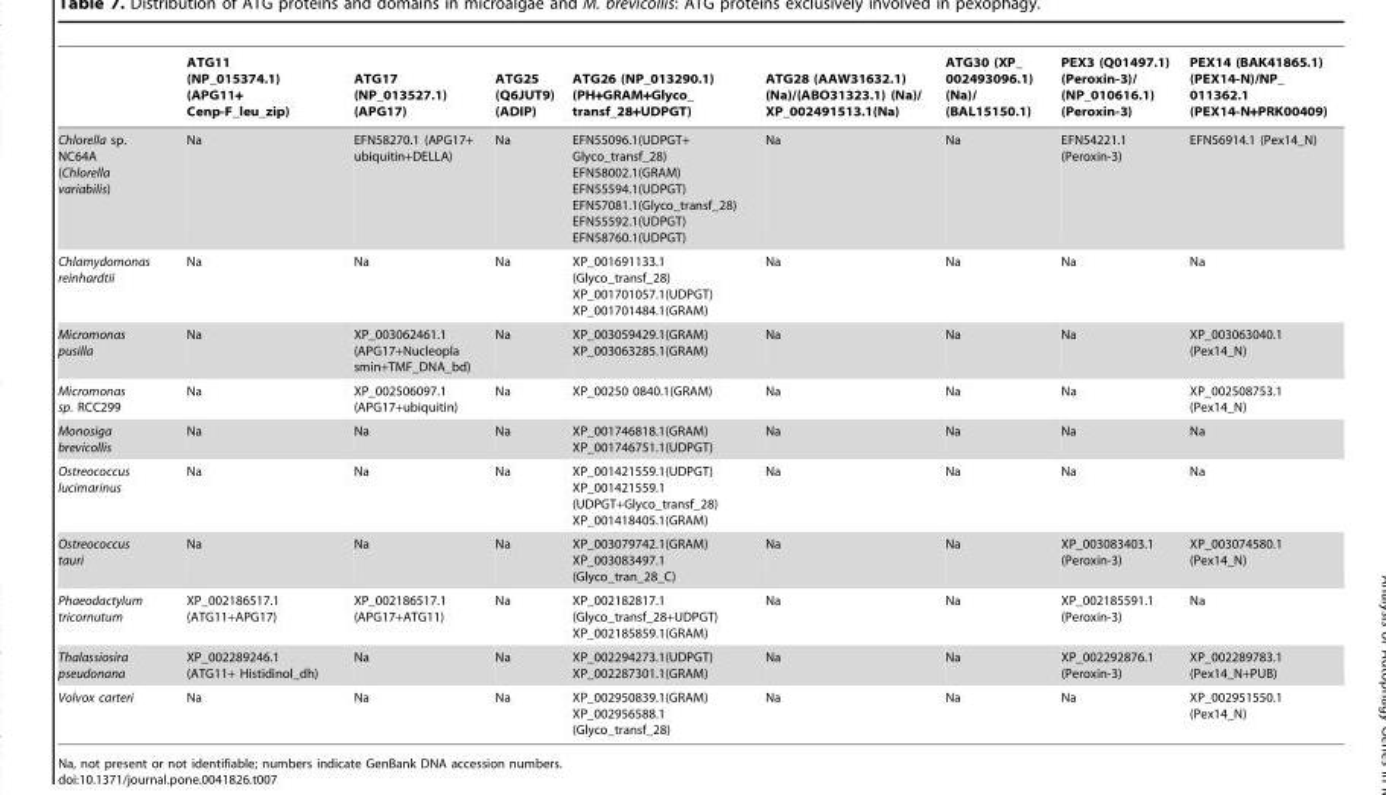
<table><thead><tr><td></td><td>ATG11 (NP_015374.1) (APG11+ Cenp-F_leu_zip)</td><td>ATG17 (NP_013527.1) (APG17)</td><td>ATG25 (Q6JUT9) (ADIP)</td><td>ATG26 (NP_013290.1) (PH+GRAM+Glyco_ transf_28+UDPGT)</td><td>ATG28 (AAW31632.1) (Na)/(ABO31323.1) (Na)/ XP_002491513.1(Na)</td><td>ATG30 (XP_ 002493096.1) (Na)/ (BAL15150.1)</td><td>PEX3 (Q01497.1) (Peroxin-3)/ (NP_010616.1) (Peroxin-3)</td><td>PEX14 (BAK41865.1) (PEX14-N)/NP_ 011362.1 (PEX14-N+PRK00409)</td></tr></thead><tbody><tr><td>Chlorella sp. NC64A (Chlorella variabilis)</td><td>Na</td><td>EFN58270.1 (APG17+ ubiquitin+DELLA)</td><td>Na</td><td>EFN55096.1(UDPGT+ Glyco_transf_28) EFN58002.1(GRAM) EFN55594.1(UDPGT) EFN57081.1(Glyco_transf_28) EFN55592.1(UDPGT) EFN58760.1(UDPGT)</td><td>Na</td><td>Na</td><td>EFN54221.1 (Peroxin-3)</td><td>EFN56914.1 (Pex14_N)</td></tr><tr><td>Chlamydomonas reinhardtii</td><td>Na</td><td>Na</td><td>Na</td><td>XP_001691133.1 (Glyco_transf_28) XP_001701057.1(UDPGT) XP_001701484.1(GRAM)</td><td>Na</td><td>Na</td><td>Na</td><td>Na</td></tr><tr><td>Micromonas pusilla</td><td>Na</td><td>XP_003062461.1 (APG17+Nucleopla smin+TMF_DNA_bd)</td><td>Na</td><td>XP_003059429.1(GRAM) XP_003063285.1(GRAM)</td><td>Na</td><td>Na</td><td>Na</td><td>XP_003063040.1 (Pex14_N)</td></tr><tr><td>Micromonas sp. RCC299</td><td>Na</td><td>XP_002506097.1 (APG17+ubiquitin)</td><td>Na</td><td>XP_00250 0840.1(GRAM)</td><td>Na</td><td>Na</td><td>Na</td><td>XP_002508753.1 (Pex14_N)</td></tr><tr><td>Monosiga brevicollis</td><td>Na</td><td>Na</td><td>Na</td><td>XP_001746818.1(GRAM) XP_001746751.1(UDPGT)</td><td>Na</td><td>Na</td><td>Na</td><td>Na</td></tr><tr><td>Ostreococcus lucimarinus</td><td>Na</td><td>Na</td><td>Na</td><td>XP_001421559.1(UDPGT) XP_001421559.1 (UDPGT+Glyco_transf_28) XP_001418405.1(GRAM)</td><td>Na</td><td>Na</td><td>Na</td><td>Na</td></tr><tr><td>Ostreococcus tauri</td><td>Na</td><td>Na</td><td>Na</td><td>XP_003079742.1(GRAM) XP_003083497.1 (Glyco_tran_28_C)</td><td>Na</td><td>Na</td><td>XP_003083403.1 (Peroxin-3)</td><td>XP_003074580.1 (Pex14_N)</td></tr><tr><td>Phaeodactylum tricornutum</td><td>XP_002186517.1 (ATG11+APG17)</td><td>XP_002186517.1 (APG17+ATG11)</td><td>Na</td><td>XP_002182817.1 (Glyco_transf_28+UDPGT) XP_002185859.1(GRAM)</td><td>Na</td><td>Na</td><td>XP_002185591.1 (Peroxin-3)</td><td>Na</td></tr><tr><td>Thalassiosira pseudonana</td><td>XP_002289246.1 (ATG11+ Histidinol_dh)</td><td>Na</td><td>Na</td><td>XP_002294273.1(UDPGT) XP_002287301.1(GRAM)</td><td>Na</td><td>Na</td><td>XP_002292876.1 (Peroxin-3)</td><td>XP_002289783.1 (Pex14_N+PUB)</td></tr><tr><td>Volvox carteri</td><td>Na</td><td>Na</td><td>Na</td><td>XP_002950839.1(GRAM) XP_002956588.1 (Glyco_transf_28)</td><td>Na</td><td>Na</td><td>Na</td><td>XP_002951550.1 (Pex14_N)</td></tr></tbody></table>